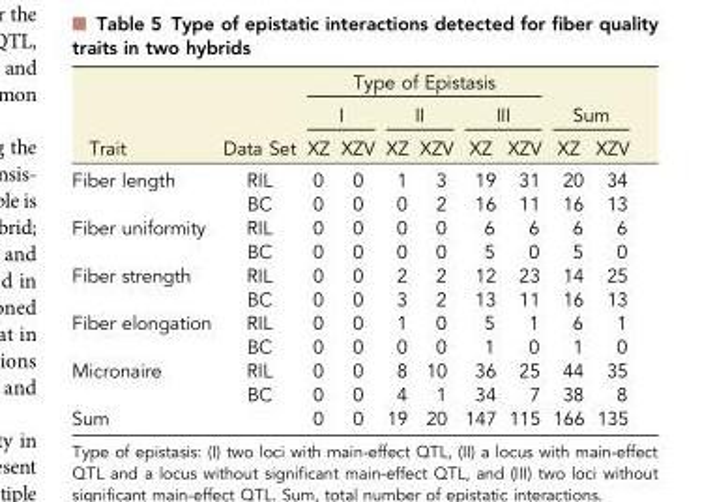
<table><thead><tr><td rowspan="3">Trait</td><td rowspan="3">Data Set</td><td colspan="6">Type of Epistasis</td><td></td><td></td></tr><tr><td colspan="2">I</td><td colspan="2">II</td><td colspan="2">III</td><td colspan="2">Sum</td></tr><tr><td>XZ</td><td>XZV</td><td>XZ</td><td>XZV</td><td>XZ</td><td>XZV</td><td>XZ</td><td>XZV</td></tr></thead><tbody><tr><td rowspan="2">Fiber length</td><td>RIL</td><td>0</td><td>0</td><td>1</td><td>3</td><td>19</td><td>31</td><td>20</td><td>34</td></tr><tr><td>BC</td><td>0</td><td>0</td><td>0</td><td>2</td><td>16</td><td>11</td><td>16</td><td>13</td></tr><tr><td rowspan="2">Fiber uniformity</td><td>RIL</td><td>0</td><td>0</td><td>0</td><td>0</td><td>6</td><td>6</td><td>6</td><td>6</td></tr><tr><td>BC</td><td>0</td><td>0</td><td>0</td><td>0</td><td>5</td><td>0</td><td>5</td><td>0</td></tr><tr><td rowspan="2">Fiber strength</td><td>RIL</td><td>0</td><td>0</td><td>2</td><td>2</td><td>12</td><td>23</td><td>14</td><td>25</td></tr><tr><td>BC</td><td>0</td><td>0</td><td>3</td><td>2</td><td>13</td><td>11</td><td>16</td><td>13</td></tr><tr><td rowspan="2">Fiber elongation</td><td>RIL</td><td>0</td><td>0</td><td>1</td><td>0</td><td>5</td><td>1</td><td>6</td><td>1</td></tr><tr><td>BC</td><td>0</td><td>0</td><td>0</td><td>0</td><td>1</td><td>0</td><td>1</td><td>0</td></tr><tr><td rowspan="2">Micronaire</td><td>RIL</td><td>0</td><td>0</td><td>8</td><td>10</td><td>36</td><td>25</td><td>44</td><td>35</td></tr><tr><td>BC</td><td>0</td><td>0</td><td>4</td><td>1</td><td>34</td><td>7</td><td>38</td><td>8</td></tr><tr><td>Sum</td><td></td><td>0</td><td>0</td><td>19</td><td>20</td><td>147</td><td>115</td><td>166</td><td>135</td></tr></tbody></table>